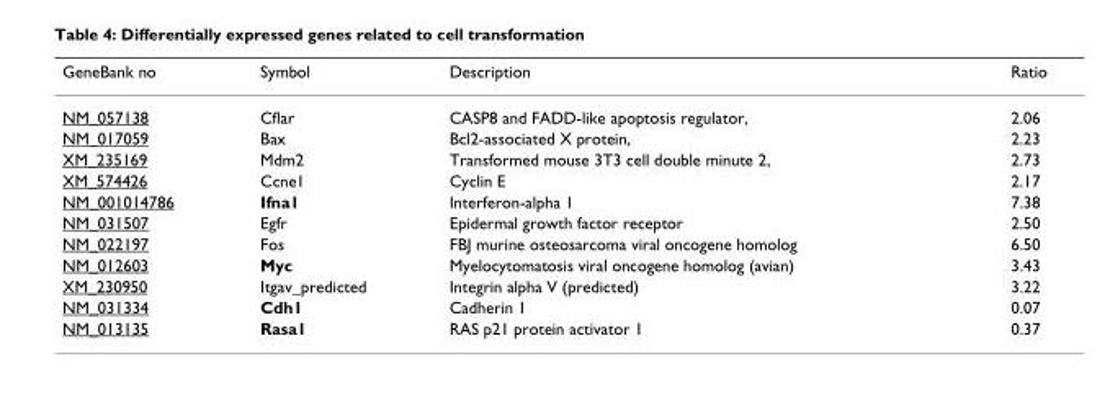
<table><thead><tr><td>GeneBank no</td><td>Symbol</td><td>Description</td><td>Ratio</td></tr></thead><tbody><tr><td>NM_057138</td><td>Cflar</td><td>CASP8 and FADD-like apoptosis regulator,</td><td>2.06</td></tr><tr><td>NM_017059</td><td>Bax</td><td>Bcl2-associated X protein,</td><td>2.23</td></tr><tr><td>XM_235169</td><td>Mdm2</td><td>Transformed mouse 3T3 cell double minute 2,</td><td>2.73</td></tr><tr><td>XM_574426</td><td>Ccne1</td><td>Cyclin E</td><td>2.17</td></tr><tr><td>NM_001014786</td><td>Ifna1</td><td>Interferon-alpha 1</td><td>7.38</td></tr><tr><td>NM_031507</td><td>Egfr</td><td>Epidermal growth factor receptor</td><td>2.50</td></tr><tr><td>NM_022197</td><td>Fos</td><td>FBJ murine osteosarcoma viral oncogene homolog</td><td>6.50</td></tr><tr><td>NM_012603</td><td>Myc</td><td>Myelocytomatosis viral oncogene homolog (avian)</td><td>3.43</td></tr><tr><td>XM_230950</td><td>Itgav_predicted</td><td>Integrin alpha V (predicted)</td><td>3.22</td></tr><tr><td>NM_031334</td><td>Cdh1</td><td>Cadherin 1</td><td>0.07</td></tr><tr><td>NM_013135</td><td>Rasa1</td><td>RAS p21 protein activator 1</td><td>0.37</td></tr></tbody></table>